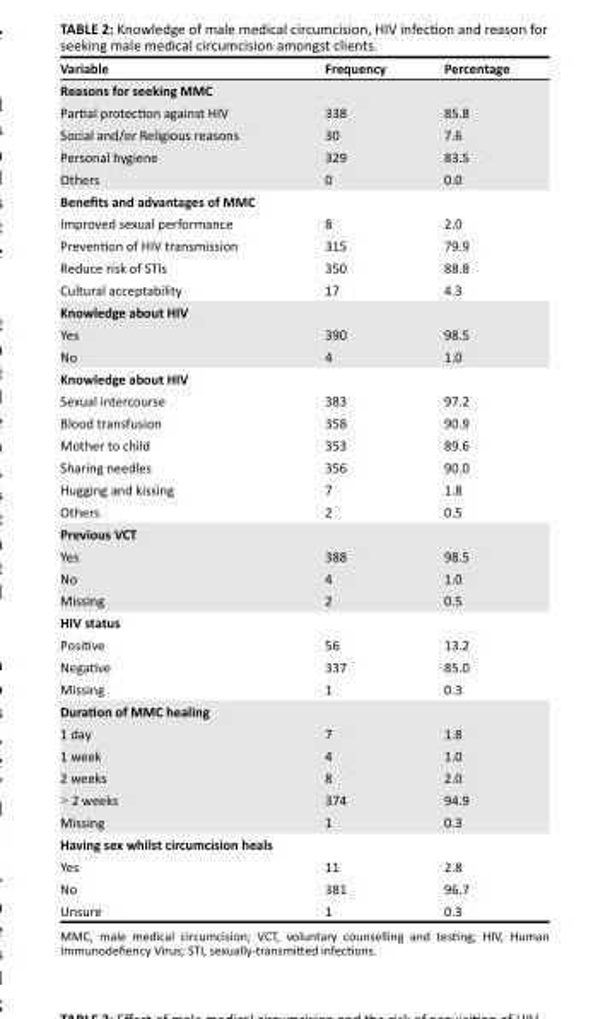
<table><thead><tr><td>Variable</td><td>Frequency</td><td>Percentage</td></tr></thead><tbody><tr><td colspan="3">Reasons for seeking MMC</td></tr><tr><td>Partial protection against HIV</td><td>338</td><td>85.8</td></tr><tr><td>Social and/or Religious reasons</td><td>30</td><td>7.6</td></tr><tr><td>Personal hygiene</td><td>329</td><td>83.5</td></tr><tr><td>Others</td><td>0</td><td>0.0</td></tr><tr><td colspan="3">Benefits and advantages of MMC</td></tr><tr><td>Improved sexual performance</td><td>8</td><td>2.0</td></tr><tr><td>Prevention of HIV transmission</td><td>315</td><td>79.9</td></tr><tr><td>Reduce risk of STIs</td><td>350</td><td>88.8</td></tr><tr><td>Cultural acceptability</td><td>17</td><td>4.3</td></tr><tr><td colspan="3">Knowledge about HIV</td></tr><tr><td>Yes</td><td>390</td><td>98.5</td></tr><tr><td>No</td><td>4</td><td>1.0</td></tr><tr><td colspan="3">Knowledge about HIV</td></tr><tr><td>Sexual intercourse</td><td>383</td><td>97.2</td></tr><tr><td>Blood transfusion</td><td>358</td><td>90.9</td></tr><tr><td>Mother to child</td><td>353</td><td>89.6</td></tr><tr><td>Sharing needles</td><td>356</td><td>90.0</td></tr><tr><td>Hugging and kissing</td><td>7</td><td>1.8</td></tr><tr><td>Others</td><td>2</td><td>0.5</td></tr><tr><td colspan="3">Previous VCT</td></tr><tr><td>Yes</td><td>388</td><td>98.5</td></tr><tr><td>No</td><td>4</td><td>1.0</td></tr><tr><td>Missing</td><td>2</td><td>0.5</td></tr><tr><td colspan="3">HIV status</td></tr><tr><td>Positive</td><td>56</td><td>13.2</td></tr><tr><td>Negative</td><td>337</td><td>85.0</td></tr><tr><td>Missing</td><td>1</td><td>0.3</td></tr><tr><td colspan="3">Duration of MMC healing</td></tr><tr><td>1 day</td><td>7</td><td>1.8</td></tr><tr><td>1 week</td><td>4</td><td>1.0</td></tr><tr><td>2 weeks</td><td>8</td><td>2.0</td></tr><tr><td>&gt; 2 weeks</td><td>374</td><td>94.9</td></tr><tr><td>Missing</td><td>1</td><td>0.3</td></tr><tr><td colspan="3">Having sex whilst circumcision heals</td></tr><tr><td>Yes</td><td>11</td><td>2.8</td></tr><tr><td>No</td><td>381</td><td>96.7</td></tr><tr><td>Unsure</td><td>1</td><td>0.3</td></tr><tr><td colspan="3">MMC, male medical circumcision; VCT, voluntary counselling and testing; HIV, Human Immunodefiency Virus; STI, sexually-transmitted infections.</td></tr></tbody></table>